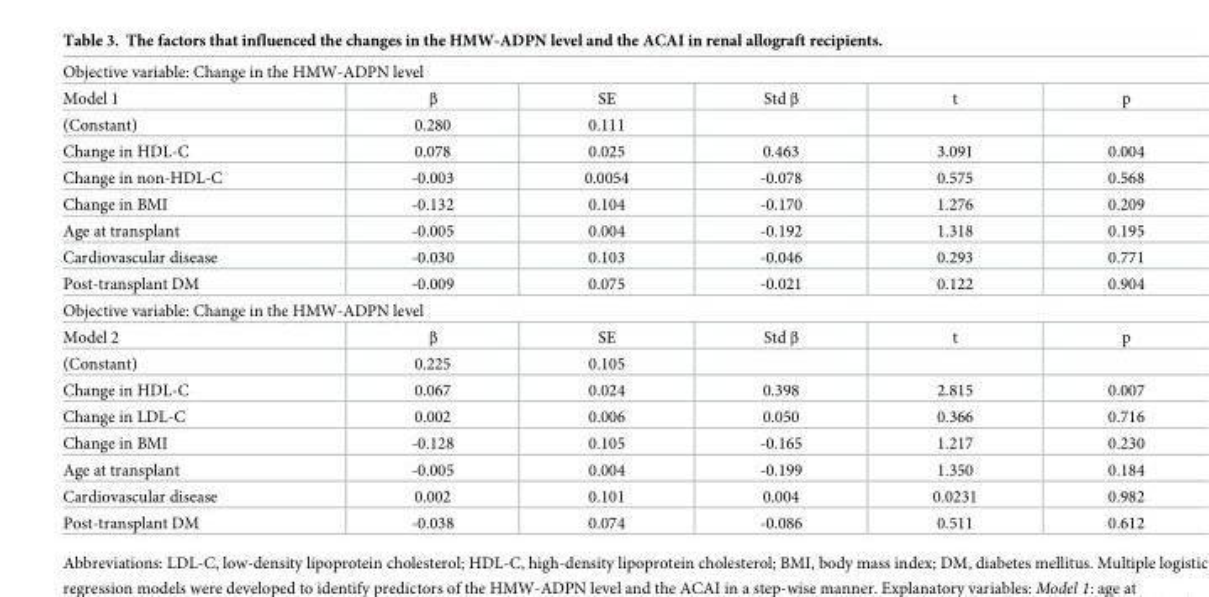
<table><tbody><tr><td colspan="6">Objective variable: Change in the HMW-ADPN level</td></tr><tr><td>Model 1</td><td>β</td><td>SE</td><td>Std β</td><td>t</td><td>p</td></tr><tr><td>(Constant)</td><td>0.280</td><td>0.111</td><td></td><td></td><td></td></tr><tr><td>Change in HDL-C</td><td>0.078</td><td>0.025</td><td>0.463</td><td>3.091</td><td>0.004</td></tr><tr><td>Change in non-HDL-C</td><td>-0.003</td><td>0.0054</td><td>-0.078</td><td>0.575</td><td>0.568</td></tr><tr><td>Change in BMI</td><td>-0.132</td><td>0.104</td><td>-0.170</td><td>1.276</td><td>0.209</td></tr><tr><td>Age at transplant</td><td>-0.005</td><td>0.004</td><td>-0.192</td><td>1.318</td><td>0.195</td></tr><tr><td>Cardiovascular disease</td><td>-0.030</td><td>0.103</td><td>-0.046</td><td>0.293</td><td>0.771</td></tr><tr><td>Post-transplant DM</td><td>-0.009</td><td>0.075</td><td>-0.021</td><td>0.122</td><td>0.904</td></tr><tr><td colspan="6">Objective variable: Change in the HMW-ADPN level</td></tr><tr><td>Model 2</td><td>β</td><td>SE</td><td>Std β</td><td>t</td><td>p</td></tr><tr><td>(Constant)</td><td>0.225</td><td>0.105</td><td></td><td></td><td></td></tr><tr><td>Change in HDL-C</td><td>0.067</td><td>0.024</td><td>0.398</td><td>2.815</td><td>0.007</td></tr><tr><td>Change in LDL-C</td><td>0.002</td><td>0.006</td><td>0.050</td><td>0.366</td><td>0.716</td></tr><tr><td>Change in BMI</td><td>-0.128</td><td>0.105</td><td>-0.165</td><td>1.217</td><td>0.230</td></tr><tr><td>Age at transplant</td><td>-0.005</td><td>0.004</td><td>-0.199</td><td>1.350</td><td>0.184</td></tr><tr><td>Cardiovascular disease</td><td>0.002</td><td>0.101</td><td>0.004</td><td>0.0231</td><td>0.982</td></tr><tr><td>Post-transplant DM</td><td>-0.038</td><td>0.074</td><td>-0.086</td><td>0.511</td><td>0.612</td></tr></tbody></table>